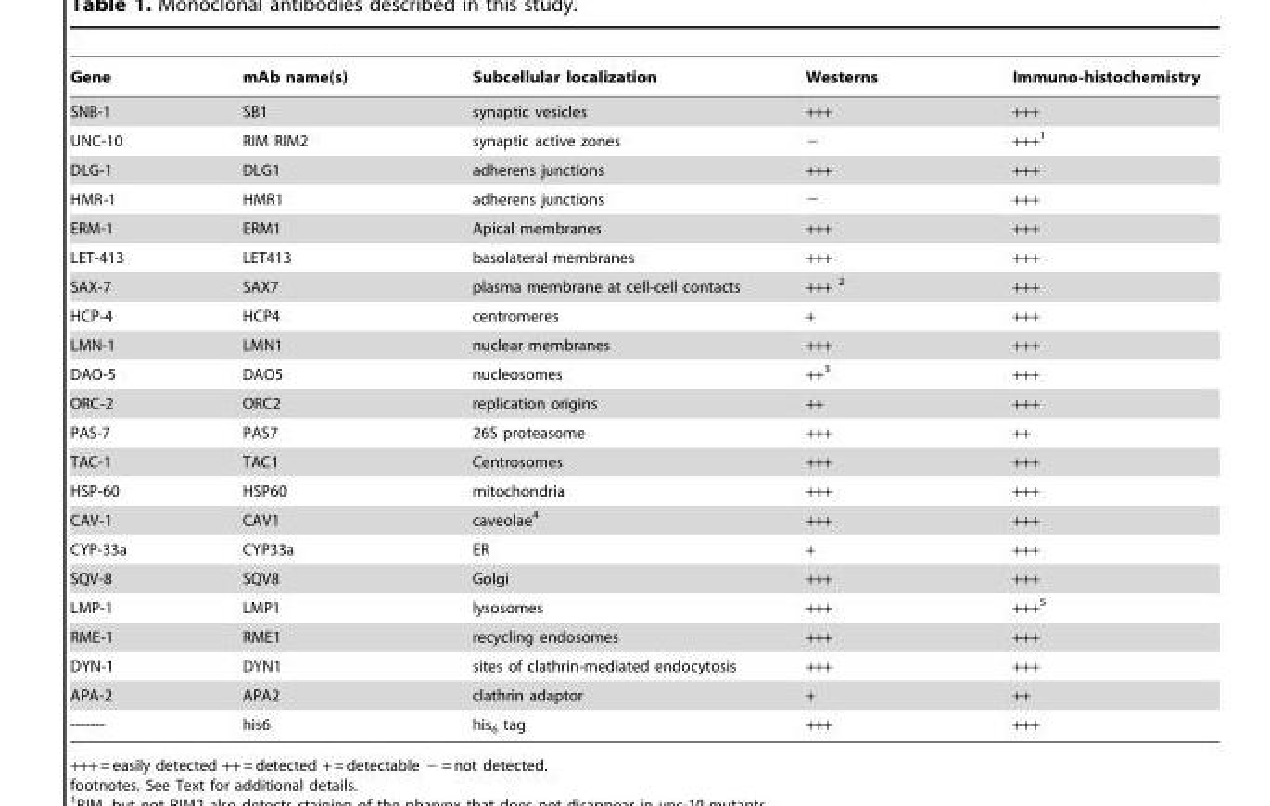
<table><thead><tr><td>Gene</td><td>mAb name(s)</td><td>Subcellular localization</td><td>Westerns</td><td>Immuno-histochemistry</td></tr></thead><tbody><tr><td>SNB-1</td><td>SB1</td><td>synaptic vesicles</td><td>+++</td><td>+++</td></tr><tr><td>UNC-10</td><td>RIM RIM2</td><td>synaptic active zones</td><td>−</td><td>+++<sup>1</sup></td></tr><tr><td>DLG-1</td><td>DLG1</td><td>adherens junctions</td><td>+++</td><td>+++</td></tr><tr><td>HMR-1</td><td>HMR1</td><td>adherens junctions</td><td>−</td><td>+++</td></tr><tr><td>ERM-1</td><td>ERM1</td><td>Apical membranes</td><td>+++</td><td>+++</td></tr><tr><td>LET-413</td><td>LET413</td><td>basolateral membranes</td><td>+++</td><td>+++</td></tr><tr><td>SAX-7</td><td>SAX7</td><td>plasma membrane at cell-cell contacts</td><td>+++ 2</td><td>+++</td></tr><tr><td>HCP-4</td><td>HCP4</td><td>centromeres</td><td>+</td><td>+++</td></tr><tr><td>LMN-1</td><td>LMN1</td><td>nuclear membranes</td><td>+++</td><td>+++</td></tr><tr><td>DAO-5</td><td>DAO5</td><td>nucleosomes</td><td>++<sup>3</sup></td><td>+++</td></tr><tr><td>ORC-2</td><td>ORC2</td><td>replication origins</td><td>++</td><td>+++</td></tr><tr><td>PAS-7</td><td>PAS7</td><td>26S proteasome</td><td>+++</td><td>++</td></tr><tr><td>TAC-1</td><td>TAC1</td><td>Centrosomes</td><td>+++</td><td>+++</td></tr><tr><td>HSP-60</td><td>HSP60</td><td>mitochondria</td><td>+++</td><td>+++</td></tr><tr><td>CAV-1</td><td>CAV1</td><td>caveolae<sup>4</sup></td><td>+++</td><td>+++</td></tr><tr><td>CYP-33a</td><td>CYP33a</td><td>ER</td><td>+</td><td>+++</td></tr><tr><td>SQV-8</td><td>SQV8</td><td>Golgi</td><td>+++</td><td>+++</td></tr><tr><td>LMP-1</td><td>LMP1</td><td>lysosomes</td><td>+++</td><td>+++<sup>5</sup></td></tr><tr><td>RME-1</td><td>RME1</td><td>recycling endosomes</td><td>+++</td><td>+++</td></tr><tr><td>DYN-1</td><td>DYN1</td><td>sites of clathrin-mediated endocytosis</td><td>+++</td><td>+++</td></tr><tr><td>APA-2</td><td>APA2</td><td>clathrin adaptor</td><td>+</td><td>++</td></tr><tr><td>-------</td><td>his6</td><td>his<sub>6</sub> tag</td><td>+++</td><td>+++</td></tr></tbody></table>